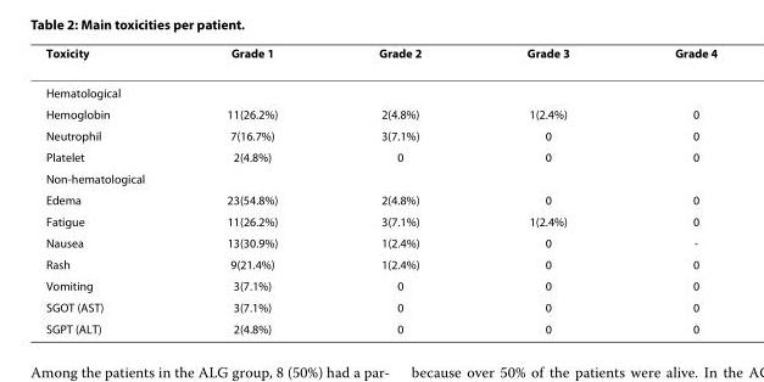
<table><thead><tr><td>Toxicity</td><td>Grade 1</td><td>Grade 2</td><td>Grade 3</td><td>Grade 4</td></tr></thead><tbody><tr><td colspan="5">Hematological</td></tr><tr><td>Hemoglobin</td><td>11(26.2%)</td><td>2(4.8%)</td><td>1(2.4%)</td><td>0</td></tr><tr><td>Neutrophil</td><td>7(16.7%)</td><td>3(7.1%)</td><td>0</td><td>0</td></tr><tr><td>Platelet</td><td>2(4.8%)</td><td>0</td><td>0</td><td>0</td></tr><tr><td colspan="5">Non-hematological</td></tr><tr><td>Edema</td><td>23(54.8%)</td><td>2(4.8%)</td><td>0</td><td>0</td></tr><tr><td>Fatigue</td><td>11(26.2%)</td><td>3(7.1%)</td><td>1(2.4%)</td><td>0</td></tr><tr><td>Nausea</td><td>13(30.9%)</td><td>1(2.4%)</td><td>0</td><td>-</td></tr><tr><td>Rash</td><td>9(21.4%)</td><td>1(2.4%)</td><td>0</td><td>0</td></tr><tr><td>Vomiting</td><td>3(7.1%)</td><td>0</td><td>0</td><td>0</td></tr><tr><td>SGOT (AST)</td><td>3(7.1%)</td><td>0</td><td>0</td><td>0</td></tr><tr><td>SGPT (ALT)</td><td>2(4.8%)</td><td>0</td><td>0</td><td>0</td></tr></tbody></table>